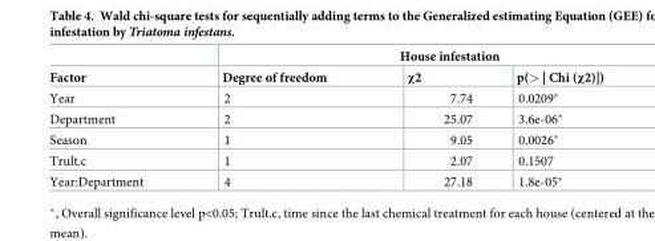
<table><thead><tr><td rowspan="2">Factor</td><td colspan="3">House infestation</td></tr><tr><td>Degree of freedom</td><td>χ2</td><td>p(&gt; | Chi (χ2)|)</td></tr></thead><tbody><tr><td>Year</td><td>2</td><td>7.74</td><td>0.0209*</td></tr><tr><td>Department</td><td>2</td><td>25.07</td><td>3.6e-06*</td></tr><tr><td>Season</td><td>1</td><td>9.05</td><td>0.0026*</td></tr><tr><td>Trult.c</td><td>1</td><td>2.07</td><td>0.1507</td></tr><tr><td>Year:Department</td><td>4</td><td>27.18</td><td>1.8e-05*</td></tr></tbody></table>